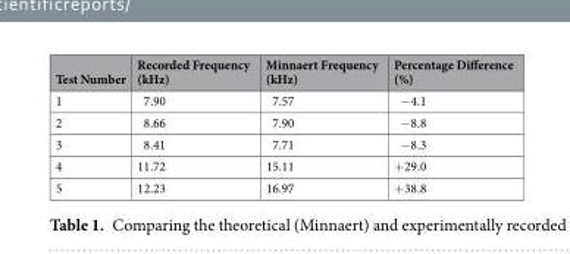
<table><thead><tr><td>Test Number</td><td>Recorded Frequency (kHz)</td><td>Minnaert Frequency (kHz)</td><td>Percentage Difference (%)</td></tr></thead><tbody><tr><td>1</td><td>7.90</td><td>7.57</td><td>−4.1</td></tr><tr><td>2</td><td>8.66</td><td>7.90</td><td>−8.8</td></tr><tr><td>3</td><td>8.41</td><td>7.71</td><td>−8.3</td></tr><tr><td>4</td><td>11.72</td><td>15.11</td><td>+29.0</td></tr><tr><td>5</td><td>12.23</td><td>16.97</td><td>+38.8</td></tr></tbody></table>